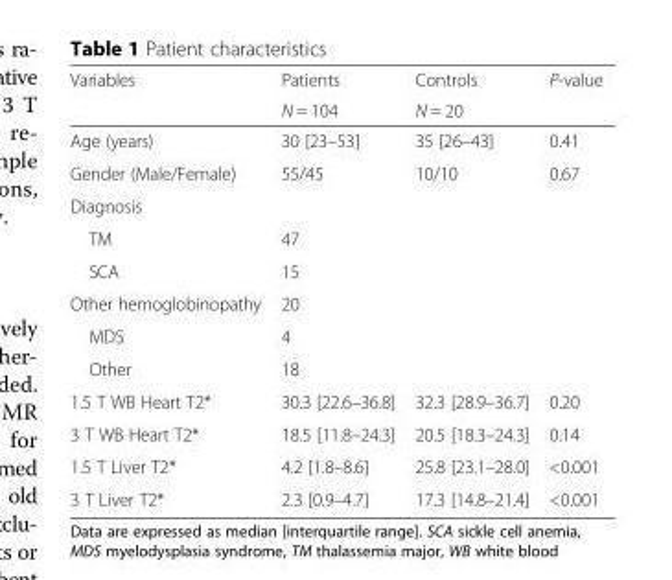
<table><thead><tr><td rowspan="2">Variables</td><td rowspan="2">Patients N = 104</td><td rowspan="2">Controls N = 20</td><td rowspan="2">P-value</td></tr><tr></tr></thead><tbody><tr><td>Age (years)</td><td>30 [23–53]</td><td>35 [26–43]</td><td>0.41</td></tr><tr><td>Gender (Male/Female)</td><td>55/45</td><td>10/10</td><td>0.67</td></tr><tr><td colspan="4">Diagnosis</td></tr><tr><td>TM</td><td>47</td><td></td><td></td></tr><tr><td>SCA</td><td>15</td><td></td><td></td></tr><tr><td>Other hemoglobinopathy</td><td>20</td><td></td><td></td></tr><tr><td>MDS</td><td>4</td><td></td><td></td></tr><tr><td>Other</td><td>18</td><td></td><td></td></tr><tr><td>1.5 T WB Heart T2*</td><td>30.3 [22.6–36.8]</td><td>32.3 [28.9–36.7]</td><td>0.20</td></tr><tr><td>3 T WB Heart T2*</td><td>18.5 [11.8–24.3]</td><td>20.5 [18.3–24.3]</td><td>0.14</td></tr><tr><td>1.5 T Liver T2*</td><td>4.2 [1.8–8.6]</td><td>25.8 [23.1–28.0]</td><td>&lt;0.001</td></tr><tr><td>3 T Liver T2*</td><td>2.3 [0.9–4.7]</td><td>17.3 [14.8–21.4]</td><td>&lt;0.001</td></tr></tbody></table>